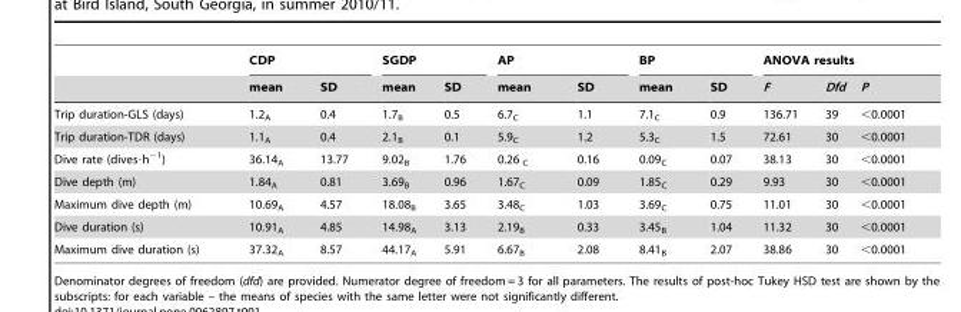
<table><thead><tr><td rowspan="2"></td><td colspan="2">CDP</td><td colspan="2">SGDP</td><td colspan="2">AP</td><td colspan="2">BP</td><td colspan="3">ANOVA results</td></tr><tr><td>mean</td><td>SD</td><td>mean</td><td>SD</td><td>mean</td><td>SD</td><td>mean</td><td>SD</td><td>F</td><td>Dfd</td><td>P</td></tr></thead><tbody><tr><td>Trip duration-GLS (days)</td><td>1.2<sub>A</sub></td><td>0.4</td><td>1.7<sub>B</sub></td><td>0.5</td><td>6.7<sub>C</sub></td><td>1.1</td><td>7.1<sub>C</sub></td><td>0.9</td><td>136.71</td><td>39</td><td>&lt;0.0001</td></tr><tr><td>Trip duration-TDR (days)</td><td>1.1<sub>A</sub></td><td>0.4</td><td>2.1<sub>B</sub></td><td>0.1</td><td>5.9<sub>C</sub></td><td>1.2</td><td>5.3<sub>C</sub></td><td>1.5</td><td>72.61</td><td>30</td><td>&lt;0.0001</td></tr><tr><td>Dive rate (dives·h<sup>−1</sup>)</td><td>36.14<sub>A</sub></td><td>13.77</td><td>9.02<sub>B</sub></td><td>1.76</td><td>0.26 <sub>C</sub></td><td>0.16</td><td>0.09<sub>C</sub></td><td>0.07</td><td>38.13</td><td>30</td><td>&lt;0.0001</td></tr><tr><td>Dive depth (m)</td><td>1.84<sub>A</sub></td><td>0.81</td><td>3.69<sub>B</sub></td><td>0.96</td><td>1.67<sub>C</sub></td><td>0.09</td><td>1.85<sub>C</sub></td><td>0.29</td><td>9.93</td><td>30</td><td>&lt;0.0001</td></tr><tr><td>Maximum dive depth (m)</td><td>10.69<sub>A</sub></td><td>4.57</td><td>18.08<sub>B</sub></td><td>3.65</td><td>3.48<sub>C</sub></td><td>1.03</td><td>3.69<sub>C</sub></td><td>0.75</td><td>11.01</td><td>30</td><td>&lt;0.0001</td></tr><tr><td>Dive duration (s)</td><td>10.91<sub>A</sub></td><td>4.85</td><td>14.98<sub>A</sub></td><td>3.13</td><td>2.19<sub>B</sub></td><td>0.33</td><td>3.45<sub>B</sub></td><td>1.04</td><td>11.32</td><td>30</td><td>&lt;0.0001</td></tr><tr><td>Maximum dive duration (s)</td><td>37.32<sub>A</sub></td><td>8.57</td><td>44.17<sub>A</sub></td><td>5.91</td><td>6.67<sub>B</sub></td><td>2.08</td><td>8.41<sub>B</sub></td><td>2.07</td><td>38.86</td><td>30</td><td>&lt;0.0001</td></tr></tbody></table>